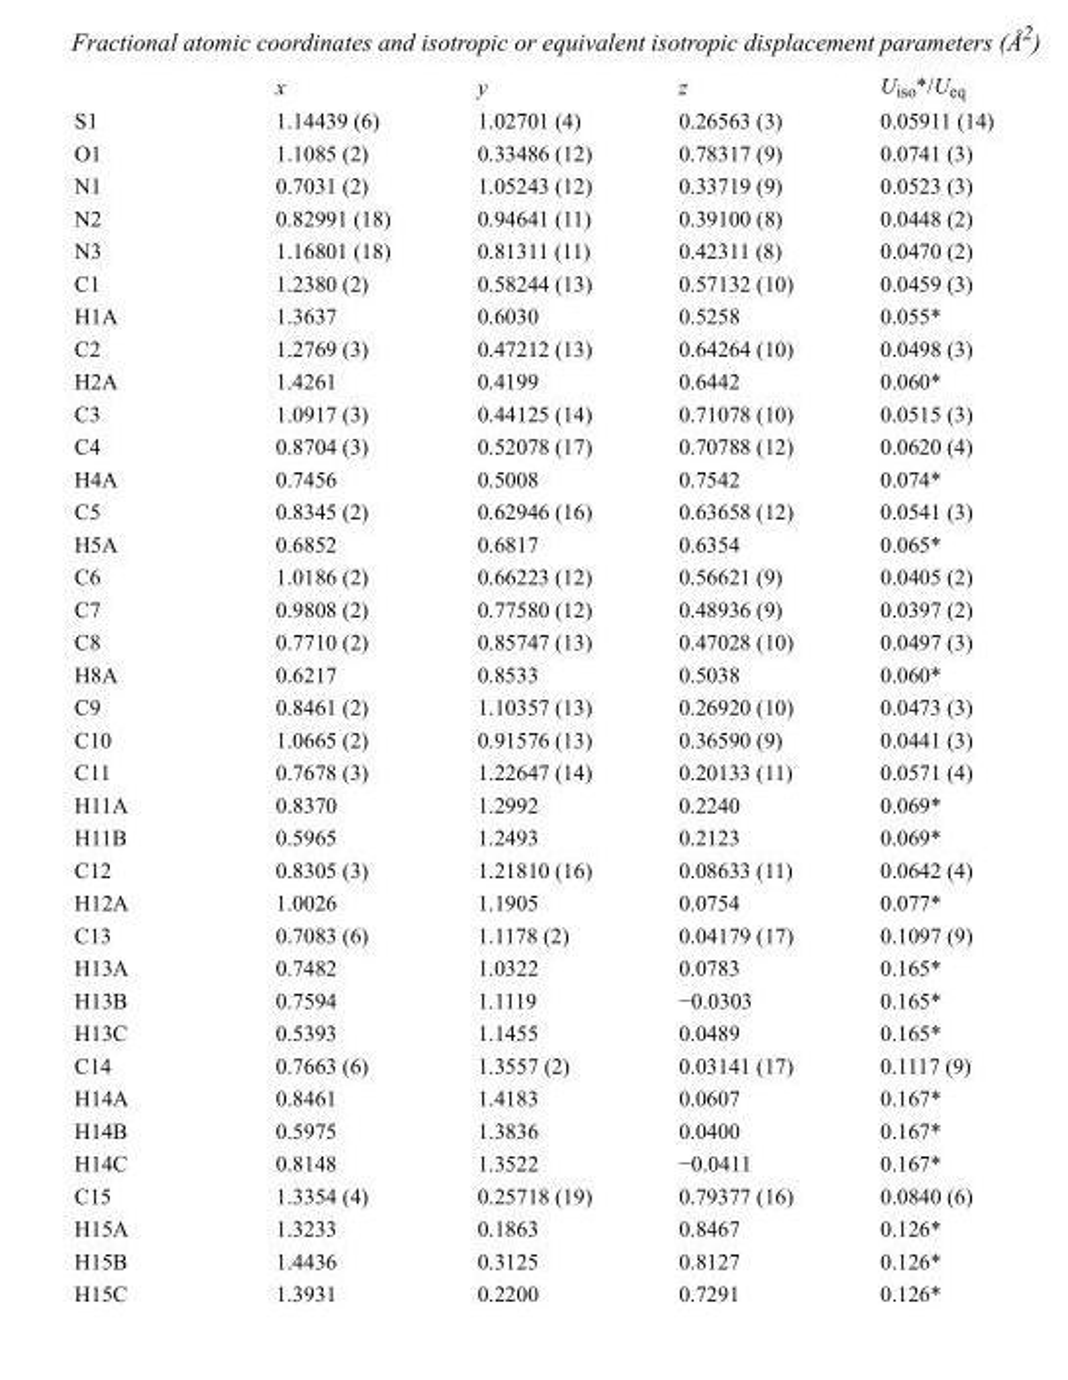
<table><thead><tr><td></td><td>x</td><td>y</td><td>z</td><td>U<sub>iso</sub>*/U<sub>eq</sub></td></tr></thead><tbody><tr><td>S1</td><td>1.14439 (6)</td><td>1.02701 (4)</td><td>0.26563 (3)</td><td>0.05911 (14)</td></tr><tr><td>O1</td><td>1.1085 (2)</td><td>0.33486 (12)</td><td>0.78317 (9)</td><td>0.0741 (3)</td></tr><tr><td>N1</td><td>0.7031 (2)</td><td>1.05243 (12)</td><td>0.33719 (9)</td><td>0.0523 (3)</td></tr><tr><td>N2</td><td>0.82991 (18)</td><td>0.94641 (11)</td><td>0.39100 (8)</td><td>0.0448 (2)</td></tr><tr><td>N3</td><td>1.16801 (18)</td><td>0.81311 (11)</td><td>0.42311 (8)</td><td>0.0470 (2)</td></tr><tr><td>C1</td><td>1.2380 (2)</td><td>0.58244 (13)</td><td>0.57132 (10)</td><td>0.0459 (3)</td></tr><tr><td>H1A</td><td>1.3637</td><td>0.6030</td><td>0.5258</td><td>0.055*</td></tr><tr><td>C2</td><td>1.2769 (3)</td><td>0.47212 (13)</td><td>0.64264 (10)</td><td>0.0498 (3)</td></tr><tr><td>H2A</td><td>1.4261</td><td>0.4199</td><td>0.6442</td><td>0.060*</td></tr><tr><td>C3</td><td>1.0917 (3)</td><td>0.44125 (14)</td><td>0.71078 (10)</td><td>0.0515 (3)</td></tr><tr><td>C4</td><td>0.8704 (3)</td><td>0.52078 (17)</td><td>0.70788 (12)</td><td>0.0620 (4)</td></tr><tr><td>H4A</td><td>0.7456</td><td>0.5008</td><td>0.7542</td><td>0.074*</td></tr><tr><td>C5</td><td>0.8345 (2)</td><td>0.62946 (16)</td><td>0.63658 (12)</td><td>0.0541 (3)</td></tr><tr><td>H5A</td><td>0.6852</td><td>0.6817</td><td>0.6354</td><td>0.065*</td></tr><tr><td>C6</td><td>1.0186 (2)</td><td>0.66223 (12)</td><td>0.56621 (9)</td><td>0.0405 (2)</td></tr><tr><td>C7</td><td>0.9808 (2)</td><td>0.77580 (12)</td><td>0.48936 (9)</td><td>0.0397 (2)</td></tr><tr><td>C8</td><td>0.7710 (2)</td><td>0.85747 (13)</td><td>0.47028 (10)</td><td>0.0497 (3)</td></tr><tr><td>H8A</td><td>0.6217</td><td>0.8533</td><td>0.5038</td><td>0.060*</td></tr><tr><td>C9</td><td>0.8461 (2)</td><td>1.10357 (13)</td><td>0.26920 (10)</td><td>0.0473 (3)</td></tr><tr><td>C10</td><td>1.0665 (2)</td><td>0.91576 (13)</td><td>0.36590 (9)</td><td>0.0441 (3)</td></tr><tr><td>C11</td><td>0.7678 (3)</td><td>1.22647 (14)</td><td>0.20133 (11)</td><td>0.0571 (4)</td></tr><tr><td>H11A</td><td>0.8370</td><td>1.2992</td><td>0.2240</td><td>0.069*</td></tr><tr><td>H11B</td><td>0.5965</td><td>1.2493</td><td>0.2123</td><td>0.069*</td></tr><tr><td>C12</td><td>0.8305 (3)</td><td>1.21810 (16)</td><td>0.08633 (11)</td><td>0.0642 (4)</td></tr><tr><td>H12A</td><td>1.0026</td><td>1.1905</td><td>0.0754</td><td>0.077*</td></tr><tr><td>C13</td><td>0.7083 (6)</td><td>1.1178 (2)</td><td>0.04179 (17)</td><td>0.1097 (9)</td></tr><tr><td>H13A</td><td>0.7482</td><td>1.0322</td><td>0.0783</td><td>0.165*</td></tr><tr><td>H13B</td><td>0.7594</td><td>1.1119</td><td>−0.0303</td><td>0.165*</td></tr><tr><td>H13C</td><td>0.5393</td><td>1.1455</td><td>0.0489</td><td>0.165*</td></tr><tr><td>C14</td><td>0.7663 (6)</td><td>1.3557 (2)</td><td>0.03141 (17)</td><td>0.1117 (9)</td></tr><tr><td>H14A</td><td>0.8461</td><td>1.4183</td><td>0.0607</td><td>0.167*</td></tr><tr><td>H14B</td><td>0.5975</td><td>1.3836</td><td>0.0400</td><td>0.167*</td></tr><tr><td>H14C</td><td>0.8148</td><td>1.3522</td><td>−0.0411</td><td>0.167*</td></tr><tr><td>C15</td><td>1.3354 (4)</td><td>0.25718 (19)</td><td>0.79377 (16)</td><td>0.0840 (6)</td></tr><tr><td>H15A</td><td>1.3233</td><td>0.1863</td><td>0.8467</td><td>0.126*</td></tr><tr><td>H15B</td><td>1.4436</td><td>0.3125</td><td>0.8127</td><td>0.126*</td></tr><tr><td>H15C</td><td>1.3931</td><td>0.2200</td><td>0.7291</td><td>0.126*</td></tr></tbody></table>